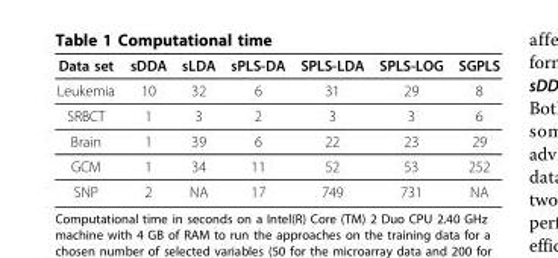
<table><thead><tr><td>Data set</td><td>sDDA</td><td>sLDA</td><td>sPLS-DA</td><td>SPLS-LDA</td><td>SPLS-LOG</td><td>SGPLS</td></tr></thead><tbody><tr><td>Leukemia</td><td>10</td><td>32</td><td>6</td><td>31</td><td>29</td><td>8</td></tr><tr><td>SRBCT</td><td>1</td><td>3</td><td>2</td><td>3</td><td>3</td><td>6</td></tr><tr><td>Brain</td><td>1</td><td>39</td><td>6</td><td>22</td><td>23</td><td>29</td></tr><tr><td>GCM</td><td>1</td><td>34</td><td>11</td><td>52</td><td>53</td><td>252</td></tr><tr><td>SNP</td><td>2</td><td>NA</td><td>17</td><td>749</td><td>731</td><td>NA</td></tr></tbody></table>